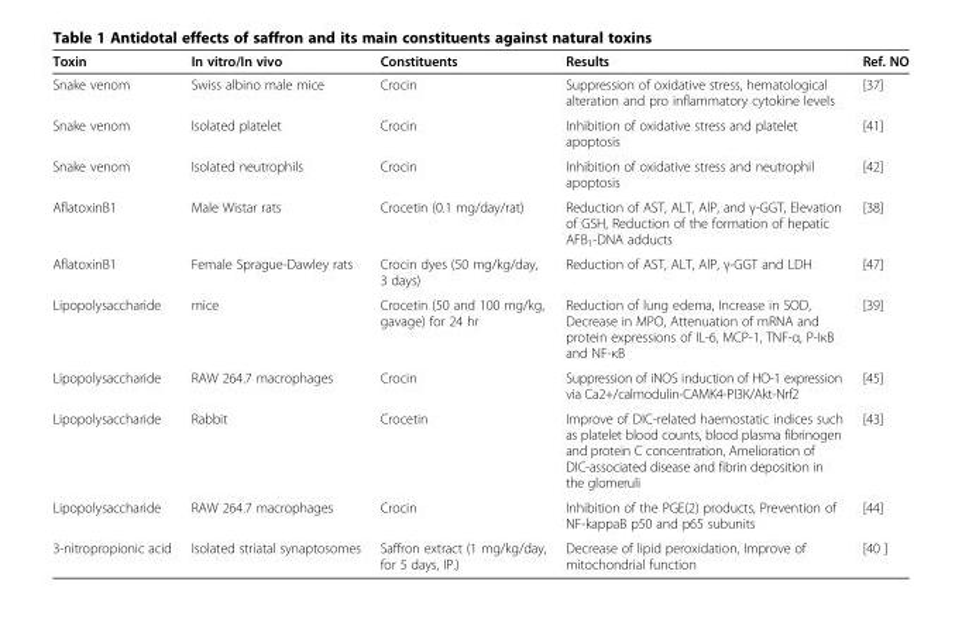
<table><thead><tr><td>Toxin</td><td>In vitro/In vivo</td><td>Constituents</td><td>Results</td><td>Ref. NO</td></tr></thead><tbody><tr><td>Snake venom</td><td>Swiss albino male mice</td><td>Crocin</td><td>Suppression of oxidative stress, hematological alteration and pro inflammatory cytokine levels</td><td>[37]</td></tr><tr><td>Snake venom</td><td>Isolated platelet</td><td>Crocin</td><td>Inhibition of oxidative stress and platelet apoptosis</td><td>[41]</td></tr><tr><td>Snake venom</td><td>Isolated neutrophils</td><td>Crocin</td><td>Inhibition of oxidative stress and neutrophil apoptosis</td><td>[42]</td></tr><tr><td>AflatoxinB1</td><td>Male Wistar rats</td><td>Crocetin (0.1 mg/day/rat)</td><td>Reduction of AST, ALT, AlP, and γ-GGT, Elevation of GSH, Reduction of the formation of hepatic AFB<sub>1</sub>-DNA adducts</td><td>[38]</td></tr><tr><td>AflatoxinB1</td><td>Female Sprague-Dawley rats</td><td>Crocin dyes (50 mg/kg/day, 3 days)</td><td>Reduction of AST, ALT, AlP, γ-GGT and LDH</td><td>[47]</td></tr><tr><td>Lipopolysaccharide</td><td>mice</td><td>Crocetin (50 and 100 mg/kg, gavage) for 24 hr</td><td>Reduction of lung edema, Increase in SOD, Decrease in MPO, Attenuation of mRNA and protein expressions of IL-6, MCP-1, TNF-α, P-IκB and NF-κB</td><td>[39]</td></tr><tr><td>Lipopolysaccharide</td><td>RAW 264.7 macrophages</td><td>Crocin</td><td>Suppression of iNOS induction of HO-1 expression via Ca2+/calmodulin-CAMK4-PI3K/Akt-Nrf2</td><td>[45]</td></tr><tr><td>Lipopolysaccharide</td><td>Rabbit</td><td>Crocetin</td><td>Improve of DIC-related haemostatic indices such as platelet blood counts, blood plasma fibrinogen and protein C concentration, Amelioration of DIC-associated disease and fibrin deposition in the glomeruli</td><td>[43]</td></tr><tr><td>Lipopolysaccharide</td><td>RAW 264.7 macrophages</td><td>Crocin</td><td>Inhibition of the PGE(2) products, Prevention of NF-kappaB p50 and p65 subunits</td><td>[44]</td></tr><tr><td>3-nitropropionic acid</td><td>Isolated striatal synaptosomes</td><td>Saffron extract (1 mg/kg/day, for 5 days, IP.)</td><td>Decrease of lipid peroxidation, Improve of mitochondrial function</td><td>[40 ]</td></tr></tbody></table>